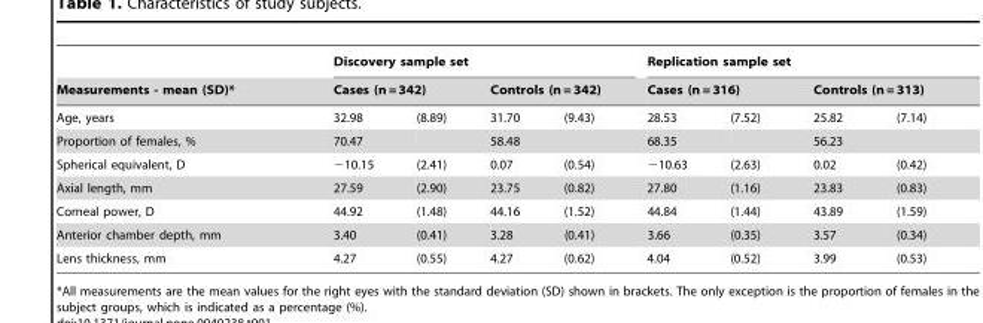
<table><thead><tr><td rowspan="3">Measurements - mean (SD)* Age, years</td><td colspan="4">Discovery sample set</td><td colspan="4">Replication sample set</td></tr><tr><td colspan="2">Cases (n = 342)</td><td colspan="2">Controls (n = 342)</td><td colspan="2">Cases (n = 316)</td><td colspan="2">Controls (n = 313)</td></tr><tr><td>32.98</td><td>(8.89)</td><td>31.70</td><td>(9.43)</td><td>28.53</td><td>(7.52)</td><td>25.82</td><td>(7.14)</td></tr></thead><tbody><tr><td>Proportion of females, %</td><td>70.47</td><td></td><td>58.48</td><td></td><td>68.35</td><td></td><td>56.23</td><td></td></tr><tr><td>Spherical equivalent, D</td><td>−10.15</td><td>(2.41)</td><td>0.07</td><td>(0.54)</td><td>−10.63</td><td>(2.63)</td><td>0.02</td><td>(0.42)</td></tr><tr><td>Axial length, mm</td><td>27.59</td><td>(2.90)</td><td>23.75</td><td>(0.82)</td><td>27.80</td><td>(1.16)</td><td>23.83</td><td>(0.83)</td></tr><tr><td>Corneal power, D</td><td>44.92</td><td>(1.48)</td><td>44.16</td><td>(1.52)</td><td>44.84</td><td>(1.44)</td><td>43.89</td><td>(1.59)</td></tr><tr><td>Anterior chamber depth, mm</td><td>3.40</td><td>(0.41)</td><td>3.28</td><td>(0.41)</td><td>3.66</td><td>(0.35)</td><td>3.57</td><td>(0.34)</td></tr><tr><td>Lens thickness, mm</td><td>4.27</td><td>(0.55)</td><td>4.27</td><td>(0.62)</td><td>4.04</td><td>(0.52)</td><td>3.99</td><td>(0.53)</td></tr></tbody></table>